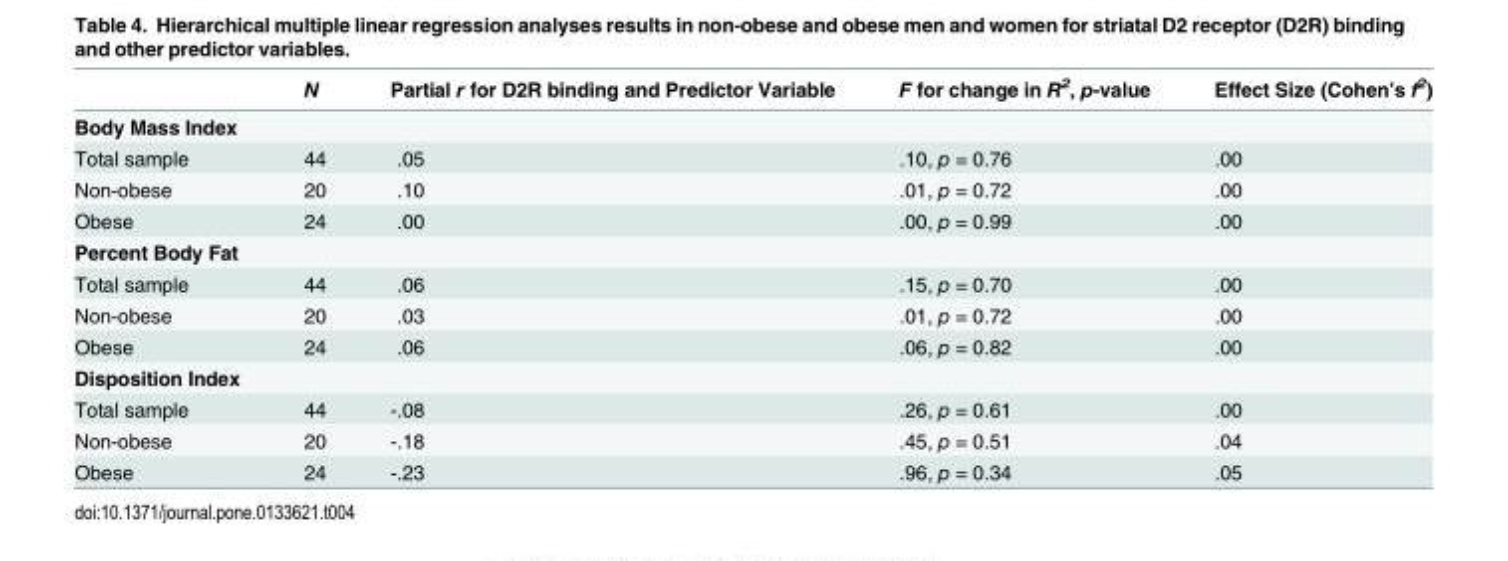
<table><thead><tr><td></td><td>N</td><td>Partial r for D2R binding and Predictor Variable</td><td>F for change in R<sup>2</sup>, p-value</td><td>Effect Size (Cohen’s f<sup>2</sup>)</td></tr></thead><tbody><tr><td colspan="5">Body Mass Index</td></tr><tr><td>Total sample</td><td>44</td><td>.05</td><td>.10, p = 0.76</td><td>.00</td></tr><tr><td>Non-obese</td><td>20</td><td>.10</td><td>.01, p = 0.72</td><td>.00</td></tr><tr><td>Obese</td><td>24</td><td>.00</td><td>.00, p = 0.99</td><td>.00</td></tr><tr><td colspan="5">Percent Body Fat</td></tr><tr><td>Total sample</td><td>44</td><td>.06</td><td>.15, p = 0.70</td><td>.00</td></tr><tr><td>Non-obese</td><td>20</td><td>.03</td><td>.01, p = 0.72</td><td>.00</td></tr><tr><td>Obese</td><td>24</td><td>.06</td><td>.06, p = 0.82</td><td>.00</td></tr><tr><td colspan="5">Disposition Index</td></tr><tr><td>Total sample</td><td>44</td><td>-.08</td><td>.26, p = 0.61</td><td>.00</td></tr><tr><td>Non-obese</td><td>20</td><td>-.18</td><td>.45, p = 0.51</td><td>.04</td></tr><tr><td>Obese</td><td>24</td><td>-.23</td><td>.96, p = 0.34</td><td>.05</td></tr></tbody></table>